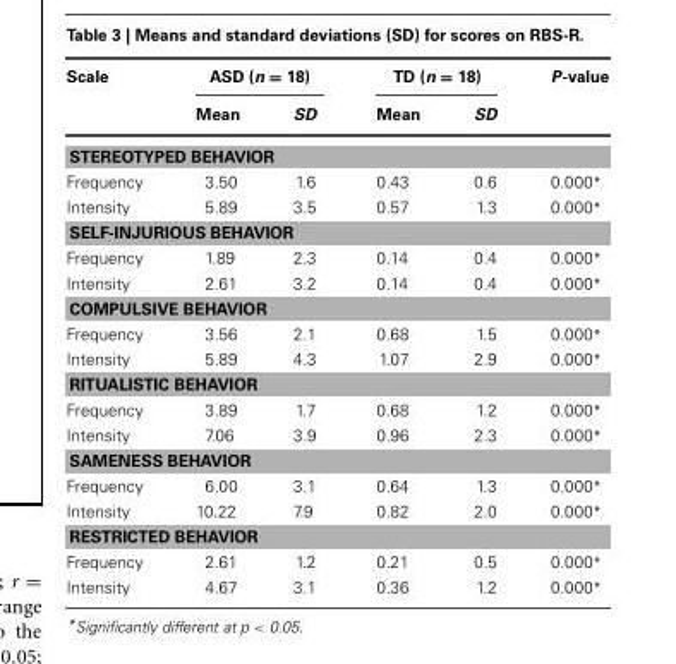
<table><thead><tr><td rowspan="2">Scale</td><td colspan="2">ASD (n = 18)</td><td colspan="2">TD (n = 18)</td><td rowspan="2">P-value</td></tr><tr><td>Mean</td><td>SD</td><td>Mean</td><td>SD</td></tr></thead><tbody><tr><td colspan="6">STEREOTYPED BEHAVIOR</td></tr><tr><td>Frequency</td><td>3.50</td><td>1.6</td><td>0.43</td><td>0.6</td><td>0.000*</td></tr><tr><td>Intensity</td><td>5.89</td><td>3.5</td><td>0.57</td><td>1.3</td><td>0.000*</td></tr><tr><td colspan="6">SELF-INJURIOUS BEHAVIOR</td></tr><tr><td>Frequency</td><td>1.89</td><td>2.3</td><td>0.14</td><td>0.4</td><td>0.000*</td></tr><tr><td>Intensity</td><td>2.61</td><td>3.2</td><td>0.14</td><td>0.4</td><td>0.000*</td></tr><tr><td colspan="6">COMPULSIVE BEHAVIOR</td></tr><tr><td>Frequency</td><td>3.56</td><td>2.1</td><td>0.68</td><td>1.5</td><td>0.000*</td></tr><tr><td>Intensity</td><td>5.89</td><td>4.3</td><td>1.07</td><td>2.9</td><td>0.000*</td></tr><tr><td colspan="6">RITUALISTIC BEHAVIOR</td></tr><tr><td>Frequency</td><td>3.89</td><td>1.7</td><td>0.68</td><td>1.2</td><td>0.000*</td></tr><tr><td>Intensity</td><td>7.06</td><td>3.9</td><td>0.96</td><td>2.3</td><td>0.000*</td></tr><tr><td colspan="6">SAMENESS BEHAVIOR</td></tr><tr><td>Frequency</td><td>6.00</td><td>3.1</td><td>0.64</td><td>1.3</td><td>0.000*</td></tr><tr><td>Intensity</td><td>10.22</td><td>7.9</td><td>0.82</td><td>2.0</td><td>0.000*</td></tr><tr><td colspan="6">RESTRICTED BEHAVIOR</td></tr><tr><td>Frequency</td><td>2.61</td><td>1.2</td><td>0.21</td><td>0.5</td><td>0.000*</td></tr><tr><td>Intensity</td><td>4.67</td><td>3.1</td><td>0.36</td><td>1.2</td><td>0.000*</td></tr></tbody></table>